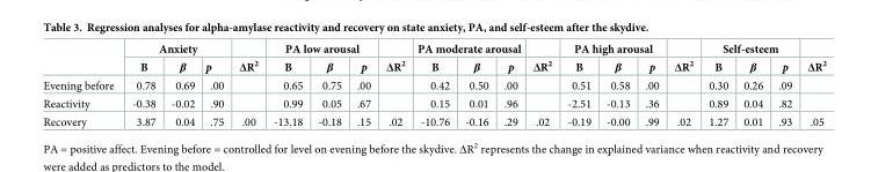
<table><thead><tr><td rowspan="2"></td><td colspan="3">Anxiety</td><td rowspan="2">ΔR<sup>2</sup></td><td colspan="3">PA low arousal</td><td rowspan="2">ΔR<sup>2</sup></td><td colspan="3">PA moderate arousal</td><td rowspan="2">ΔR<sup>2</sup></td><td colspan="3">PA high arousal</td><td rowspan="2">ΔR<sup>2</sup></td><td colspan="3">Self-esteem</td><td rowspan="2">ΔR<sup>2</sup></td></tr><tr><td>B</td><td>β</td><td>p</td><td>B</td><td>β</td><td>p</td><td>B</td><td>β</td><td>p</td><td>B</td><td>β</td><td>p</td><td>B</td><td>β</td><td>p</td></tr></thead><tbody><tr><td>Evening before</td><td>0.78</td><td>0.69</td><td>.00</td><td></td><td>0.65</td><td>0.75</td><td>.00</td><td></td><td>0.42</td><td>0.50</td><td>.00</td><td></td><td>0.51</td><td>0.58</td><td>.00</td><td></td><td>0.30</td><td>0.26</td><td>.09</td><td></td></tr><tr><td>Reactivity</td><td>-0.38</td><td>-0.02</td><td>.90</td><td></td><td>0.99</td><td>0.05</td><td>.67</td><td></td><td>0.15</td><td>0.01</td><td>.96</td><td></td><td>-2.51</td><td>-0.13</td><td>.36</td><td></td><td>0.89</td><td>0.04</td><td>.82</td><td></td></tr><tr><td>Recovery</td><td>3.87</td><td>0.04</td><td>.75</td><td>.00</td><td>-13.18</td><td>-0.18</td><td>.15</td><td>.02</td><td>-10.76</td><td>-0.16</td><td>.29</td><td>.02</td><td>-0.19</td><td>-0.00</td><td>.99</td><td>.02</td><td>1.27</td><td>0.01</td><td>.93</td><td>.05</td></tr></tbody></table>